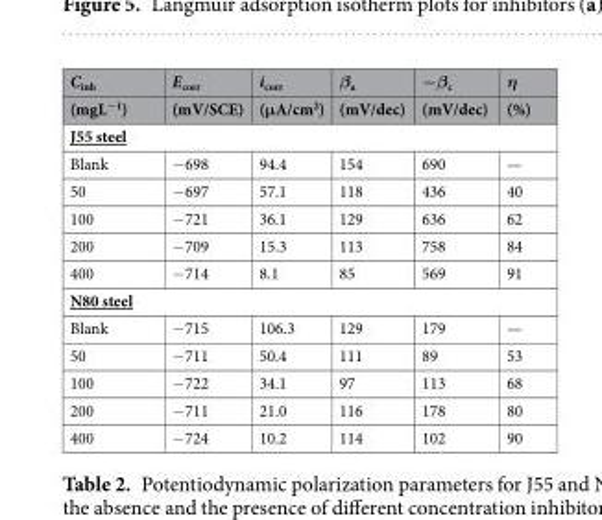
<table><thead><tr><td rowspan="2">C<sub>inh</sub> (mgL<sup>−1</sup>)</td><td rowspan="2">E<sub>corr</sub> (mV/SCE)</td><td rowspan="2">i<sub>corr</sub> (μA/cm<sup>2</sup>)</td><td rowspan="2">β<sub>a</sub> (mV/dec)</td><td rowspan="2">−β<sub>c</sub> (mV/dec)</td><td rowspan="2">η (%)</td></tr><tr></tr></thead><tbody><tr><td colspan="6">J55 steel</td></tr><tr><td>Blank</td><td>−698</td><td>94.4</td><td>154</td><td>690</td><td>—</td></tr><tr><td>50</td><td>−697</td><td>57.1</td><td>118</td><td>436</td><td>40</td></tr><tr><td>100</td><td>−721</td><td>36.1</td><td>129</td><td>636</td><td>62</td></tr><tr><td>200</td><td>−709</td><td>15.3</td><td>113</td><td>758</td><td>84</td></tr><tr><td>400</td><td>−714</td><td>8.1</td><td>85</td><td>569</td><td>91</td></tr><tr><td colspan="6">N80 steel</td></tr><tr><td>Blank</td><td>−715</td><td>106.3</td><td>129</td><td>179</td><td>—</td></tr><tr><td>50</td><td>−711</td><td>50.4</td><td>111</td><td>89</td><td>53</td></tr><tr><td>100</td><td>−722</td><td>34.1</td><td>97</td><td>113</td><td>68</td></tr><tr><td>200</td><td>−711</td><td>21.0</td><td>116</td><td>178</td><td>80</td></tr><tr><td>400</td><td>−724</td><td>10.2</td><td>114</td><td>102</td><td>90</td></tr></tbody></table>